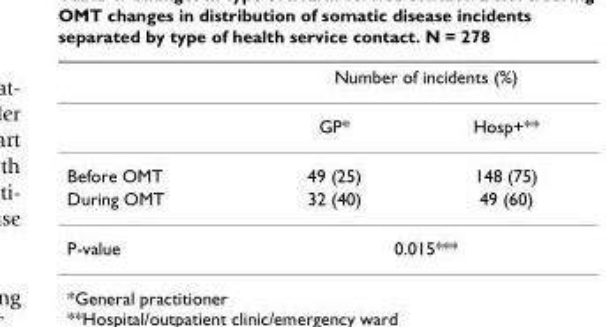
<table><thead><tr><td rowspan="2"></td><td colspan="2">Number of incidents (%)</td></tr><tr><td>GP*</td><td>Hosp+**</td></tr></thead><tbody><tr><td>Before OMT</td><td>49 (25)</td><td>148 (75)</td></tr><tr><td>During OMT</td><td>32 (40)</td><td>49 (60)</td></tr><tr><td>P-value</td><td colspan="2">0.015***</td></tr></tbody></table>